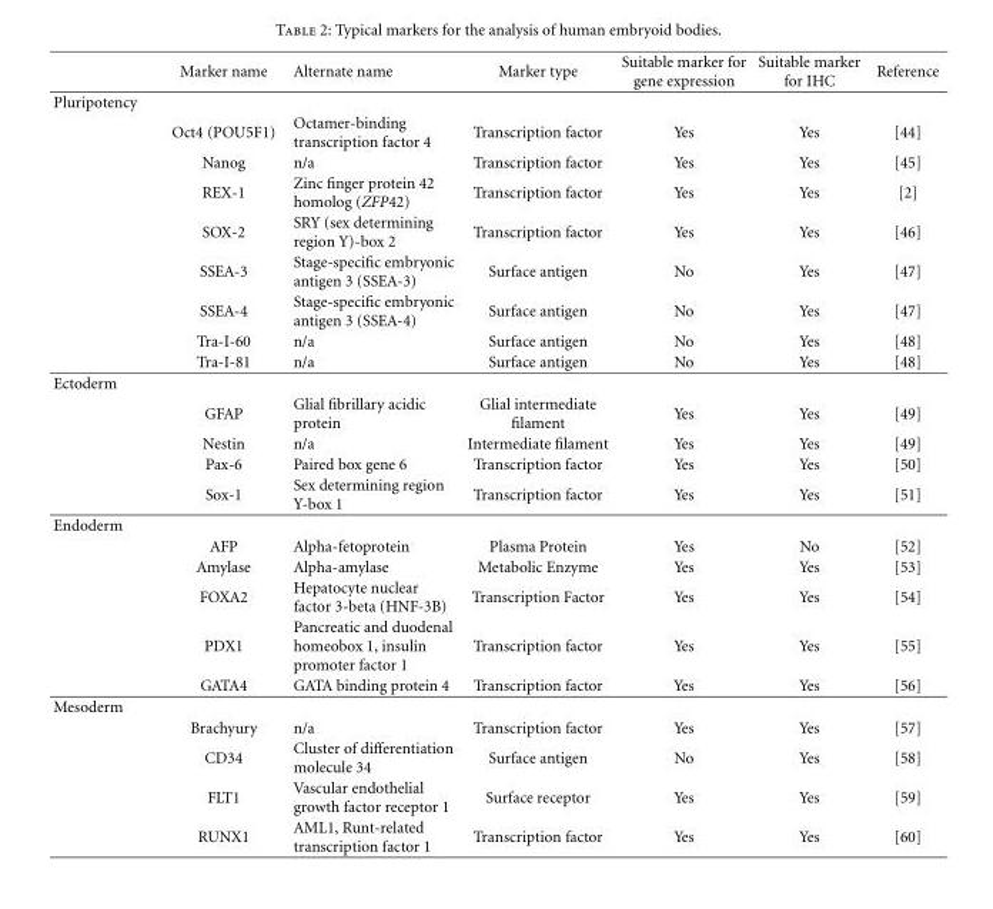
<table><thead><tr><td></td><td>Marker name</td><td>Alternate name</td><td>Marker type</td><td>Suitable marker for gene expression</td><td>Suitable marker for IHC</td><td>Reference</td></tr></thead><tbody><tr><td colspan="7">Pluripotency</td></tr><tr><td></td><td>Oct4 (POU5F1)</td><td>Octamer-binding transcription factor 4</td><td>Transcription factor</td><td>Yes</td><td>Yes</td><td>[44]</td></tr><tr><td></td><td>Nanog</td><td>n/a</td><td>Transcription factor</td><td>Yes</td><td>Yes</td><td>[45]</td></tr><tr><td></td><td>REX-1</td><td>Zinc finger protein 42 homolog (ZFP42)</td><td>Transcription factor</td><td>Yes</td><td>Yes</td><td>[2]</td></tr><tr><td></td><td>SOX-2</td><td>SRY (sex determining region Y)-box 2</td><td>Transcription factor</td><td>Yes</td><td>Yes</td><td>[46]</td></tr><tr><td></td><td>SSEA-3</td><td>Stage-specific embryonic antigen 3 (SSEA-3)</td><td>Surface antigen</td><td>No</td><td>Yes</td><td>[47]</td></tr><tr><td></td><td>SSEA-4</td><td>Stage-specific embryonic antigen 3 (SSEA-4)</td><td>Surface antigen</td><td>No</td><td>Yes</td><td>[47]</td></tr><tr><td></td><td>Tra-I-60</td><td>n/a</td><td>Surface antigen</td><td>No</td><td>Yes</td><td>[48]</td></tr><tr><td></td><td>Tra-I-81</td><td>n/a</td><td>Surface antigen</td><td>No</td><td>Yes</td><td>[48]</td></tr><tr><td colspan="7">Ectoderm</td></tr><tr><td></td><td>GFAP</td><td>Glial fibrillary acidic protein</td><td>Glial intermediate filament</td><td>Yes</td><td>Yes</td><td>[49]</td></tr><tr><td></td><td>Nestin</td><td>n/a</td><td>Intermediate filament</td><td>Yes</td><td>Yes</td><td>[49]</td></tr><tr><td></td><td>Pax-6</td><td>Paired box gene 6</td><td>Transcription factor</td><td>Yes</td><td>Yes</td><td>[50]</td></tr><tr><td></td><td>Sox-1</td><td>Sex determining region Y-box 1</td><td>Transcription factor</td><td>Yes</td><td>Yes</td><td>[51]</td></tr><tr><td colspan="7">Endoderm</td></tr><tr><td></td><td>AFP</td><td>Alpha-fetoprotein</td><td>Plasma Protein</td><td>Yes</td><td>No</td><td>[52]</td></tr><tr><td></td><td>Amylase</td><td>Alpha-amylase</td><td>Metabolic Enzyme</td><td>Yes</td><td>Yes</td><td>[53]</td></tr><tr><td></td><td>FOXA2</td><td>Hepatocyte nuclear factor 3-beta (HNF-3B)</td><td>Transcription Factor</td><td>Yes</td><td>Yes</td><td>[54]</td></tr><tr><td></td><td>PDX1</td><td>Pancreatic and duodenal homeobox 1, insulin promoter factor 1</td><td>Transcription factor</td><td>Yes</td><td>Yes</td><td>[55]</td></tr><tr><td></td><td>GATA4</td><td>GATA binding protein 4</td><td>Transcription factor</td><td>Yes</td><td>Yes</td><td>[56]</td></tr><tr><td colspan="7">Mesoderm</td></tr><tr><td></td><td>Brachyury</td><td>n/a</td><td>Transcription factor</td><td>Yes</td><td>Yes</td><td>[57]</td></tr><tr><td></td><td>CD34</td><td>Cluster of differentiation molecule 34</td><td>Surface antigen</td><td>No</td><td>Yes</td><td>[58]</td></tr><tr><td></td><td>FLT1</td><td>Vascular endothelial growth factor receptor 1</td><td>Surface receptor</td><td>Yes</td><td>Yes</td><td>[59]</td></tr><tr><td></td><td>RUNX1</td><td>AML1, Runt-related transcription factor 1</td><td>Transcription factor</td><td>Yes</td><td>Yes</td><td>[60]</td></tr></tbody></table>